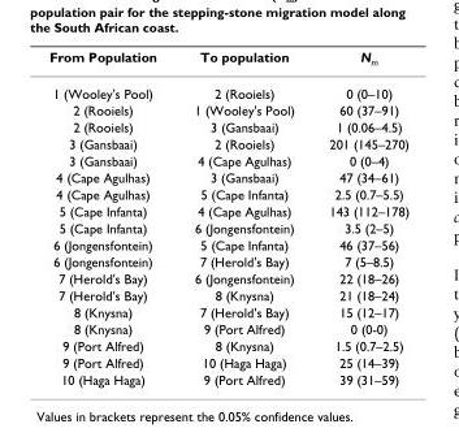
<table><thead><tr><td>From Population</td><td>To population</td><td>N<sub>m</sub></td></tr></thead><tbody><tr><td>1 (Wooley&#x27;s Pool)</td><td>2 (Rooiels)</td><td>0 (0–10)</td></tr><tr><td>2 (Rooiels)</td><td>1 (Wooley&#x27;s Pool)</td><td>60 (37–91)</td></tr><tr><td>2 (Rooiels)</td><td>3 (Gansbaai)</td><td>1 (0.06–4.5)</td></tr><tr><td>3 (Gansbaai)</td><td>2 (Rooiels)</td><td>201 (145–270)</td></tr><tr><td>3 (Gansbaai)</td><td>4 (Cape Agulhas)</td><td>0 (0–4)</td></tr><tr><td>4 (Cape Agulhas)</td><td>3 (Gansbaai)</td><td>47 (34–61)</td></tr><tr><td>4 (Cape Agulhas)</td><td>5 (Cape Infanta)</td><td>2.5 (0.7–5.5)</td></tr><tr><td>5 (Cape Infanta)</td><td>4 (Cape Agulhas)</td><td>143 (112–178)</td></tr><tr><td>5 (Cape Infanta)</td><td>6 (Jongensfontein)</td><td>3.5 (2–5)</td></tr><tr><td>6 (Jongensfontein)</td><td>5 (Cape Infanta)</td><td>46 (37–56)</td></tr><tr><td>6 (Jongensfontein)</td><td>7 (Herold&#x27;s Bay)</td><td>7 (5–8.5)</td></tr><tr><td>7 (Herold&#x27;s Bay)</td><td>6 (Jongensfontein)</td><td>22 (18–26)</td></tr><tr><td>7 (Herold&#x27;s Bay)</td><td>8 (Knysna)</td><td>21 (18–24)</td></tr><tr><td>8 (Knysna)</td><td>7 (Herold&#x27;s Bay)</td><td>15 (12–17)</td></tr><tr><td>8 (Knysna)</td><td>9 (Port Alfred)</td><td>0 (0-0)</td></tr><tr><td>9 (Port Alfred)</td><td>8 (Knysna)</td><td>1.5 (0.7–2.5)</td></tr><tr><td>9 (Port Alfred)</td><td>10 (Haga Haga)</td><td>25 (14–39)</td></tr><tr><td>10 (Haga Haga)</td><td>9 (Port Alfred)</td><td>39 (31–59)</td></tr></tbody></table>